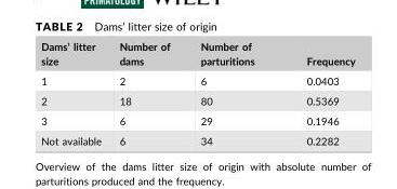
<table><thead><tr><td>Dams’ litter size</td><td>Number of dams</td><td>Number of parturitions</td><td>Frequency</td></tr></thead><tbody><tr><td>1</td><td>2</td><td>6</td><td>0.0403</td></tr><tr><td>2</td><td>18</td><td>80</td><td>0.5369</td></tr><tr><td>3</td><td>6</td><td>29</td><td>0.1946</td></tr><tr><td>Not available</td><td>6</td><td>34</td><td>0.2282</td></tr></tbody></table>